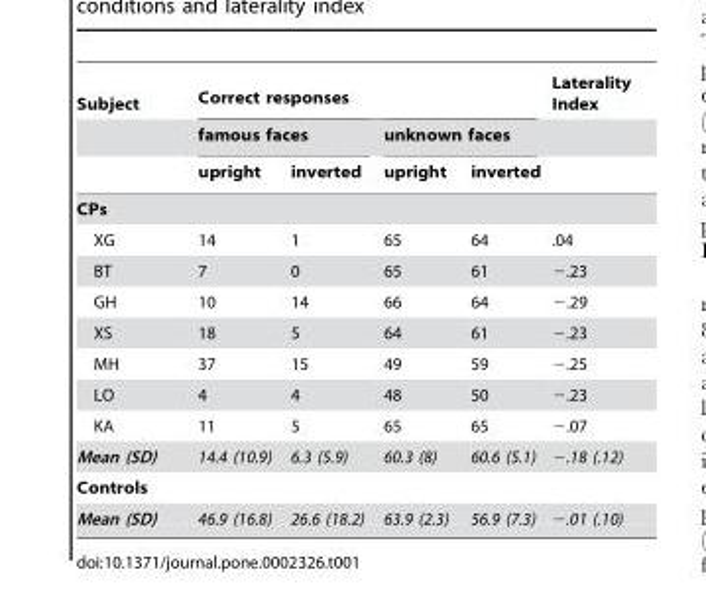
<table><thead><tr><td rowspan="3">Subject</td><td colspan="4">Correct responses</td><td rowspan="3">Laterality Index</td></tr><tr><td colspan="2">famous faces</td><td colspan="2">unknown faces</td></tr><tr><td>upright</td><td>inverted</td><td>upright</td><td>inverted</td></tr></thead><tbody><tr><td colspan="6">CPs</td></tr><tr><td>XG</td><td>14</td><td>1</td><td>65</td><td>64</td><td>.04</td></tr><tr><td>BT</td><td>7</td><td>0</td><td>65</td><td>61</td><td>−.23</td></tr><tr><td>GH</td><td>10</td><td>14</td><td>66</td><td>64</td><td>−.29</td></tr><tr><td>XS</td><td>18</td><td>5</td><td>64</td><td>61</td><td>−.23</td></tr><tr><td>MH</td><td>37</td><td>15</td><td>49</td><td>59</td><td>−.25</td></tr><tr><td>LO</td><td>4</td><td>4</td><td>48</td><td>50</td><td>−.23</td></tr><tr><td>KA</td><td>11</td><td>5</td><td>65</td><td>65</td><td>−.07</td></tr><tr><td>Mean (SD)</td><td>14.4 (10.9)</td><td>6.3 (5.9)</td><td>60.3 (8)</td><td>60.6 (5.1)</td><td>−.18 (.12)</td></tr><tr><td colspan="6">Controls</td></tr><tr><td>Mean (SD)</td><td>46.9 (16.8)</td><td>26.6 (18.2)</td><td>63.9 (2.3)</td><td>56.9 (7.3)</td><td>−.01 (.10)</td></tr></tbody></table>